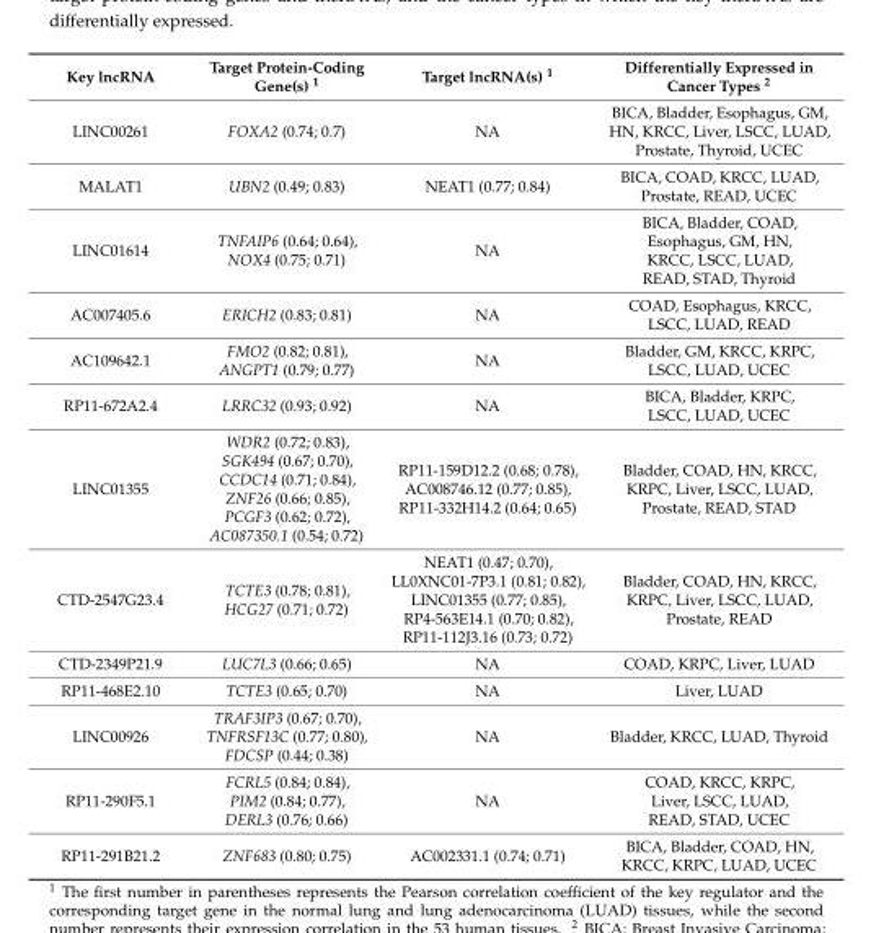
<table><thead><tr><td>Key lncRNA</td><td>Target Protein-Coding Gene(s) <sup>1</sup></td><td>Target lncRNA(s) <sup>1</sup></td><td>Differentially Expressed in Cancer Types <sup>2</sup></td></tr></thead><tbody><tr><td>LINC00261</td><td>FOXA2 (0.74; 0.7)</td><td>NA</td><td>BICA, Bladder, Esophagus, GM, HN, KRCC, Liver, LSCC, LUAD, Prostate, Thyroid, UCEC</td></tr><tr><td>MALAT1</td><td>UBN2 (0.49; 0.83)</td><td>NEAT1 (0.77; 0.84)</td><td>BICA, COAD, KRCC, LUAD, Prostate, READ, UCEC</td></tr><tr><td>LINC01614</td><td>TNFAIP6 (0.64; 0.64), NOX4 (0.75; 0.71)</td><td>NA</td><td>BICA, Bladder, COAD, Esophagus, GM, HN, KRCC, LSCC, LUAD, READ, STAD, Thyroid</td></tr><tr><td>AC007405.6</td><td>ERICH2 (0.83; 0.81)</td><td>NA</td><td>COAD, Esophagus, KRCC, LSCC, LUAD, READ</td></tr><tr><td>AC109642.1</td><td>FMO2 (0.82; 0.81), ANGPT1 (0.79; 0.77)</td><td>NA</td><td>Bladder, GM, KRCC, KRPC, LSCC, LUAD, UCEC</td></tr><tr><td>RP11-672A2.4</td><td>LRRC32 (0.93; 0.92)</td><td>NA</td><td>BICA, Bladder, KRPC, LSCC, LUAD, UCEC</td></tr><tr><td>LINC01355</td><td>WDR2 (0.72; 0.83), SGK494 (0.67; 0.70), CCDC14 (0.71; 0.84), ZNF26 (0.66; 0.85), PCGF3 (0.62; 0.72), AC087350.1 (0.54; 0.72)</td><td>RP11-159D12.2 (0.68; 0.78), AC008746.12 (0.77; 0.85), RP11-332H14.2 (0.64; 0.65)</td><td>Bladder, COAD, HN, KRCC, KRPC, Liver, LSCC, LUAD, Prostate, READ, STAD</td></tr><tr><td>CTD-2547G23.4</td><td>TCTE3 (0.78; 0.81), HCG27 (0.71; 0.72)</td><td>NEAT1 (0.47; 0.70), LL0XNC01-7P3.1 (0.81; 0.82), LINC01355 (0.77; 0.85), RP4-563E14.1 (0.70; 0.82), RP11-112J3.16 (0.73; 0.72)</td><td>Bladder, COAD, HN, KRCC, KRPC, Liver, LSCC, LUAD, Prostate, READ</td></tr><tr><td>CTD-2349P21.9</td><td>LUC7L3 (0.66; 0.65)</td><td>NA</td><td>COAD, KRPC, Liver, LUAD</td></tr><tr><td>RP11-468E2.10</td><td>TCTE3 (0.65; 0.70)</td><td>NA</td><td>Liver, LUAD</td></tr><tr><td>LINC00926</td><td>TRAF3IP3 (0.67; 0.70), TNFRSF13C (0.77; 0.80), FDCSP (0.44; 0.38)</td><td>NA</td><td>Bladder, KRCC, LUAD, Thyroid</td></tr><tr><td>RP11-290F5.1</td><td>FCRL5 (0.84; 0.84), PIM2 (0.84; 0.77), DERL3 (0.76; 0.66)</td><td>NA</td><td>COAD, KRCC, KRPC, Liver, LSCC, LUAD, READ, STAD, UCEC</td></tr><tr><td>RP11-291B21.2</td><td>ZNF683 (0.80; 0.75)</td><td>AC002331.1 (0.74; 0.71)</td><td>BICA, Bladder, COAD, HN, KRCC, KRPC, LUAD, UCEC</td></tr></tbody></table>